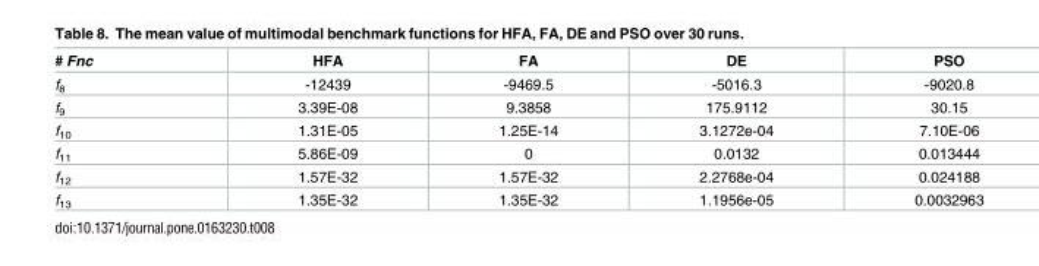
<table><thead><tr><td># Fnc</td><td>HFA</td><td>FA</td><td>DE</td><td>PSO</td></tr></thead><tbody><tr><td>f<sub>8</sub></td><td>-12439</td><td>-9469.5</td><td>-5016.3</td><td>-9020.8</td></tr><tr><td>f<sub>9</sub></td><td>3.39E-08</td><td>9.3858</td><td>175.9112</td><td>30.15</td></tr><tr><td>f<sub>10</sub></td><td>1.31E-05</td><td>1.25E-14</td><td>3.1272e-04</td><td>7.10E-06</td></tr><tr><td>f<sub>11</sub></td><td>5.86E-09</td><td>0</td><td>0.0132</td><td>0.013444</td></tr><tr><td>f<sub>12</sub></td><td>1.57E-32</td><td>1.57E-32</td><td>2.2768e-04</td><td>0.024188</td></tr><tr><td>f<sub>13</sub></td><td>1.35E-32</td><td>1.35E-32</td><td>1.1956e-05</td><td>0.0032963</td></tr></tbody></table>